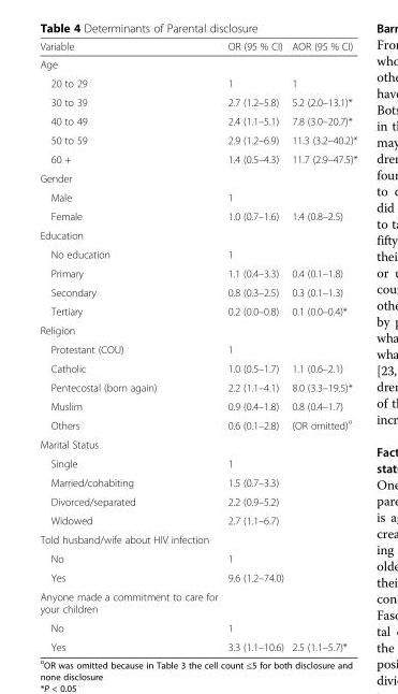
<table><thead><tr><td>Variable</td><td>OR (95 % CI)</td><td>AOR (95 % CI)</td></tr></thead><tbody><tr><td colspan="3">Age</td></tr><tr><td>20 to 29</td><td>1</td><td>1</td></tr><tr><td>30 to 39</td><td>2.7 (1.2–5.8)</td><td>5.2 (2.0–13.1)*</td></tr><tr><td>40 to 49</td><td>2.4 (1.1–5.1)</td><td>7.8 (3.0–20.7)*</td></tr><tr><td>50 to 59</td><td>2.9 (1.2–6.9)</td><td>11.3 (3.2–40.2)*</td></tr><tr><td>60 +</td><td>1.4 (0.5–4.3)</td><td>11.7 (2.9–47.5)*</td></tr><tr><td colspan="3">Gender</td></tr><tr><td>Male</td><td>1</td><td></td></tr><tr><td>Female</td><td>1.0 (0.7–1.6)</td><td>1.4 (0.8–2.5)</td></tr><tr><td colspan="3">Education</td></tr><tr><td>No education</td><td>1</td><td></td></tr><tr><td>Primary</td><td>1.1 (0.4–3.3)</td><td>0.4 (0.1–1.8)</td></tr><tr><td>Secondary</td><td>0.8 (0.3–2.5)</td><td>0.3 (0.1–1.3)</td></tr><tr><td>Tertiary</td><td>0.2 (0.0–0.8)</td><td>0.1 (0.0–0.4)*</td></tr><tr><td colspan="3">Religion</td></tr><tr><td>Protestant (COU)</td><td>1</td><td></td></tr><tr><td>Catholic</td><td>1.0 (0.5–1.7)</td><td>1.1 (0.6–2.1)</td></tr><tr><td>Pentecostal (born again)</td><td>2.2 (1.1–4.1)</td><td>8.0 (3.3–19.5)*</td></tr><tr><td>Muslim</td><td>0.9 (0.4–1.8)</td><td>0.8 (0.4–1.7)</td></tr><tr><td>Others</td><td>0.6 (0.1–2.8)</td><td>(OR omitted)<sup>¤</sup></td></tr><tr><td colspan="3">Marital Status</td></tr><tr><td>Single</td><td>1</td><td></td></tr><tr><td>Married/cohabiting</td><td>1.5 (0.7–3.3)</td><td></td></tr><tr><td>Divorced/separated</td><td>2.2 (0.9–5.2)</td><td></td></tr><tr><td>Widowed</td><td>2.7 (1.1–6.7)</td><td></td></tr><tr><td colspan="3">Told husband/wife about HIV infection</td></tr><tr><td>No</td><td>1</td><td></td></tr><tr><td>Yes</td><td>9.6 (1.2–74.0)</td><td></td></tr><tr><td colspan="3">Anyone made a commitment to care for your children</td></tr><tr><td>No</td><td>1</td><td></td></tr><tr><td>Yes</td><td>3.3 (1.1–10.6)</td><td>2.5 (1.1–5.7)*</td></tr></tbody></table>